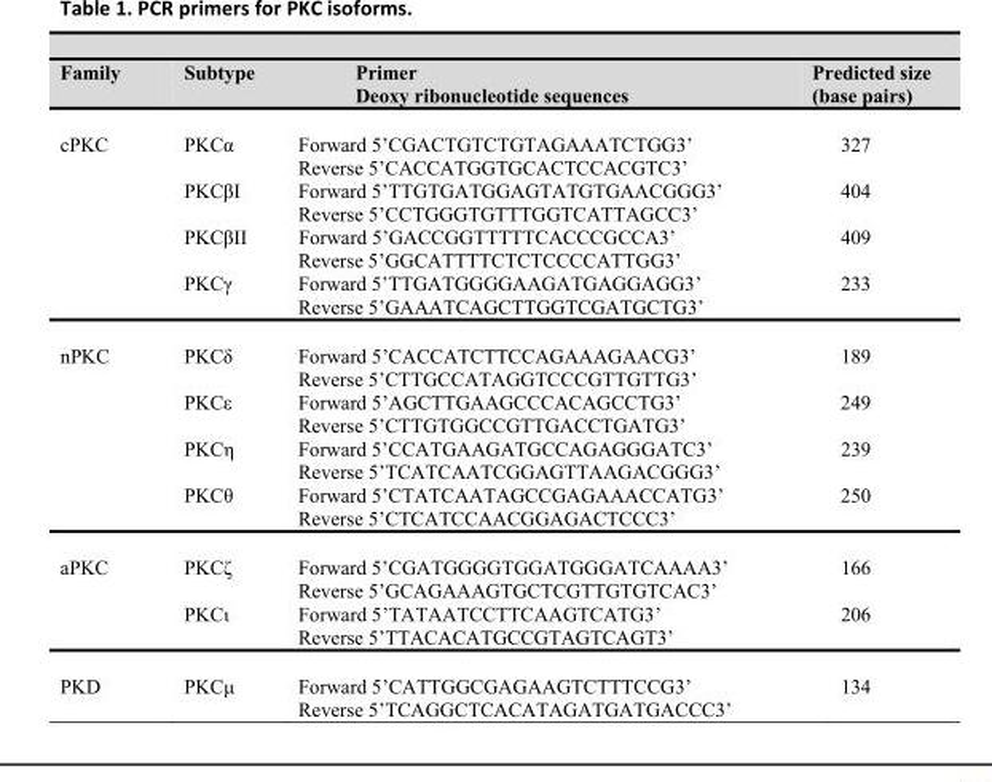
<table><thead><tr><td>Family</td><td>Subtype</td><td>Primer Deoxy ribonucleotide sequences</td><td>Predicted size (base pairs)</td></tr></thead><tbody><tr><td rowspan="8">cPKC</td><td rowspan="2">PKCα</td><td>Forward 5’CGACTGTCTGTAGAAATCTGG3’</td><td rowspan="2">327</td></tr><tr><td>Reverse 5’CACCATGGTGCACTCCACGTC3’</td></tr><tr><td rowspan="2">PKCβI</td><td>Forward 5’TTGTGATGGAGTATGTGAACGGG3’</td><td rowspan="2">404</td></tr><tr><td>Reverse 5’CCTGGGTGTTTGGTCATTAGCC3’</td></tr><tr><td rowspan="2">PKCβII</td><td>Forward 5’GACCGGTTTTTCACCCGCCA3’</td><td rowspan="2">409</td></tr><tr><td>Reverse 5’GGCATTTTCTCTCCCCATTGG3’</td></tr><tr><td rowspan="2">PKCγ</td><td>Forward 5’TTGATGGGGAAGATGAGGAGG3’</td><td rowspan="2">233</td></tr><tr><td>Reverse 5’GAAATCAGCTTGGTCGATGCTG3’</td></tr><tr><td rowspan="8">nPKC</td><td rowspan="2">PKCδ</td><td>Forward 5’CACCATCTTCCAGAAAGAACG3’</td><td rowspan="2">189</td></tr><tr><td>Reverse 5’CTTGCCATAGGTCCCGTTGTTG3’</td></tr><tr><td rowspan="2">PKCε</td><td>Forward 5’AGCTTGAAGCCCACAGCCTG3’</td><td rowspan="2">249</td></tr><tr><td>Reverse 5’CTTGTGGCCGTTGACCTGATG3’</td></tr><tr><td rowspan="2">PKCη</td><td>Forward 5’CCATGAAGATGCCAGAGGGATC3’</td><td rowspan="2">239</td></tr><tr><td>Reverse 5’TCATCAATCGGAGTTAAGACGGG3’</td></tr><tr><td rowspan="2">PKCθ</td><td>Forward 5’CTATCAATAGCCGAGAAACCATG3’</td><td rowspan="2">250</td></tr><tr><td>Reverse 5’CTCATCCAACGGAGACTCCC3’</td></tr><tr><td rowspan="4">aPKC</td><td rowspan="2">PKCζ</td><td>Forward 5’CGATGGGGTGGATGGGATCAAAA3’</td><td rowspan="2">166</td></tr><tr><td>Reverse 5’GCAGAAAGTGCTCGTTGTGTCAC3’</td></tr><tr><td rowspan="2">PKCι</td><td>Forward 5’TATAATCCTTCAAGTCATG3’</td><td rowspan="2">206</td></tr><tr><td>Reverse 5’TTACACATGCCGTAGTCAGT3’</td></tr><tr><td rowspan="2">PKD</td><td rowspan="2">PKCμ</td><td>Forward 5’CATTGGCGAGAAGTCTTTCCG3’</td><td rowspan="2">134</td></tr><tr><td>Reverse 5’TCAGGCTCACATAGATGATGACCC3’</td></tr></tbody></table>